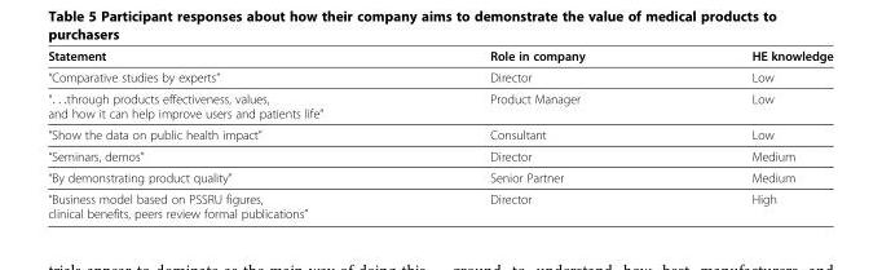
<table><thead><tr><td>Statement</td><td>Role in company</td><td>HE knowledge</td></tr></thead><tbody><tr><td>“Comparative studies by experts”</td><td>Director</td><td>Low</td></tr><tr><td>“. . .through products effectiveness, values, and how it can help improve users and patients life”</td><td>Product Manager</td><td>Low</td></tr><tr><td>“Show the data on public health impact”</td><td>Consultant</td><td>Low</td></tr><tr><td>“Seminars, demos”</td><td>Director</td><td>Medium</td></tr><tr><td>“By demonstrating product quality”</td><td>Senior Partner</td><td>Medium</td></tr><tr><td>“Business model based on PSSRU figures, clinical benefits, peers review formal publications”</td><td>Director</td><td>High</td></tr></tbody></table>